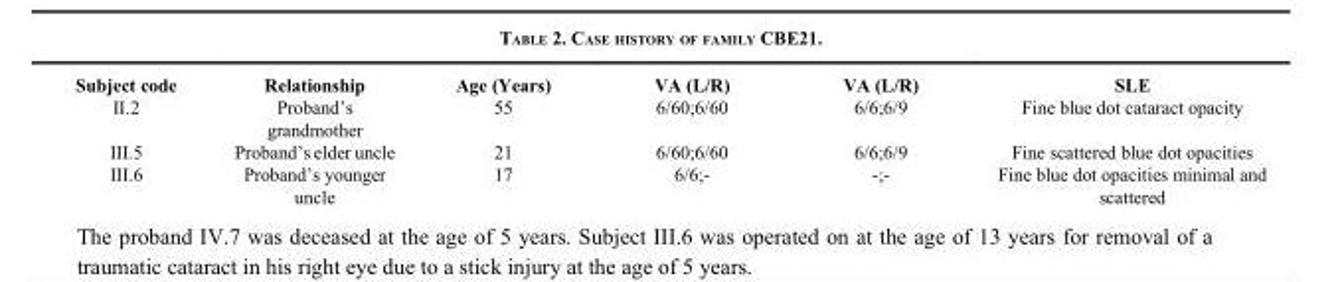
<table><thead><tr><td>Subject code</td><td>Relationship</td><td>Age (Years)</td><td>VA (L/R)</td><td>VA (L/R)</td><td>SLE</td></tr></thead><tbody><tr><td>II.2</td><td>Proband’s grandmother</td><td>55</td><td>6/60;6/60</td><td>6/6;6/9</td><td>Fine blue dot cataract opacity</td></tr><tr><td>III.5</td><td>Proband’s elder uncle</td><td>21</td><td>6/60;6/60</td><td>6/6;6/9</td><td>Fine scattered blue dot opacities</td></tr><tr><td>III.6</td><td>Proband’s younger uncle</td><td>17</td><td>6/6;-</td><td>-;-</td><td>Fine blue dot opacities minimal and scattered</td></tr></tbody></table>